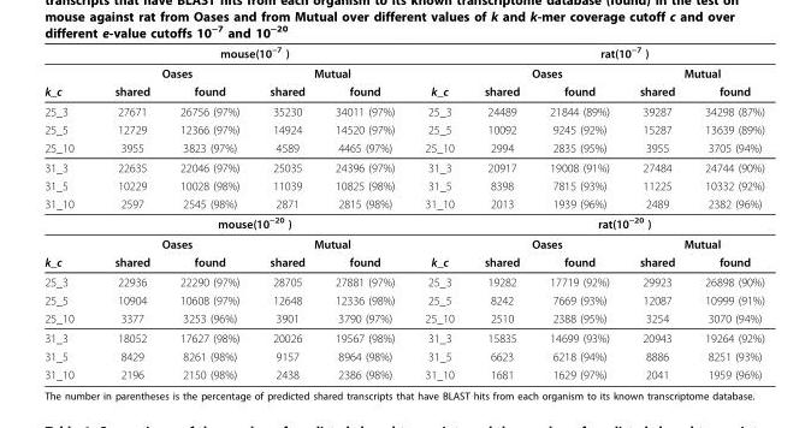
<table><thead><tr><td rowspan="3">k_c</td><td colspan="4">mouse(10<sup>−7</sup> )</td><td rowspan="3">k_c</td><td colspan="4">rat(10<sup>−7</sup> )</td></tr><tr><td colspan="2">Oases</td><td colspan="2">Mutual</td><td colspan="2">Oases</td><td colspan="2">Mutual</td></tr><tr><td>shared</td><td>found</td><td>shared</td><td>found</td><td>shared</td><td>found</td><td>shared</td><td>found</td></tr></thead><tbody><tr><td>25_3</td><td>27671</td><td>26756 (97%)</td><td>35230</td><td>34011 (97%)</td><td>25_3</td><td>24489</td><td>21844 (89%)</td><td>39287</td><td>34298 (87%)</td></tr><tr><td>25_5</td><td>12729</td><td>12366 (97%)</td><td>14924</td><td>14520 (97%)</td><td>25_5</td><td>10092</td><td>9245 (92%)</td><td>15287</td><td>13639 (89%)</td></tr><tr><td>25_10</td><td>3955</td><td>3823 (97%)</td><td>4589</td><td>4465 (97%)</td><td>25_10</td><td>2994</td><td>2835 (95%)</td><td>3955</td><td>3705 (94%)</td></tr><tr><td>31_3</td><td>22635</td><td>22046 (97%)</td><td>25035</td><td>24396 (97%)</td><td>31_3</td><td>20917</td><td>19008 (91%)</td><td>27484</td><td>24744 (90%)</td></tr><tr><td>31_5</td><td>10229</td><td>10028 (98%)</td><td>11039</td><td>10825 (98%)</td><td>31_5</td><td>8398</td><td>7815 (93%)</td><td>11225</td><td>10332 (92%)</td></tr><tr><td rowspan="3">31_10</td><td>2597</td><td>2545 (98%)</td><td>2871</td><td>2815 (98%)</td><td>31_10</td><td>2013</td><td>1939 (96%)</td><td>2489</td><td>2382 (96%)</td></tr><tr><td colspan="4">mouse(10<sup>−20</sup> )</td><td></td><td colspan="4">rat(10<sup>−20</sup> )</td></tr><tr><td colspan="2">Oases</td><td colspan="2">Mutual</td><td></td><td colspan="2">Oases</td><td colspan="2">Mutual</td></tr><tr><td>k_c</td><td>shared</td><td>found</td><td>shared</td><td>found</td><td>k_c</td><td>shared</td><td>found</td><td>shared</td><td>found</td></tr><tr><td>25_3</td><td>22936</td><td>22290 (97%)</td><td>28705</td><td>27881 (97%)</td><td>25_3</td><td>19282</td><td>17719 (92%)</td><td>29923</td><td>26898 (90%)</td></tr><tr><td>25_5</td><td>10904</td><td>10608 (97%)</td><td>12648</td><td>12336 (98%)</td><td>25_5</td><td>8242</td><td>7669 (93%)</td><td>12087</td><td>10999 (91%)</td></tr><tr><td>25_10</td><td>3377</td><td>3253 (96%)</td><td>3901</td><td>3790 (97%)</td><td>25_10</td><td>2510</td><td>2388 (95%)</td><td>3254</td><td>3070 (94%)</td></tr><tr><td>31_3</td><td>18052</td><td>17627 (98%)</td><td>20026</td><td>19567 (98%)</td><td>31_3</td><td>15835</td><td>14699 (93%)</td><td>20943</td><td>19264 (92%)</td></tr><tr><td>31_5</td><td>8429</td><td>8261 (98%)</td><td>9157</td><td>8964 (98%)</td><td>31_5</td><td>6623</td><td>6218 (94%)</td><td>8886</td><td>8251 (93%)</td></tr><tr><td>31_10</td><td>2196</td><td>2150 (98%)</td><td>2438</td><td>2386 (98%)</td><td>31_10</td><td>1681</td><td>1629 (97%)</td><td>2041</td><td>1959 (96%)</td></tr></tbody></table>